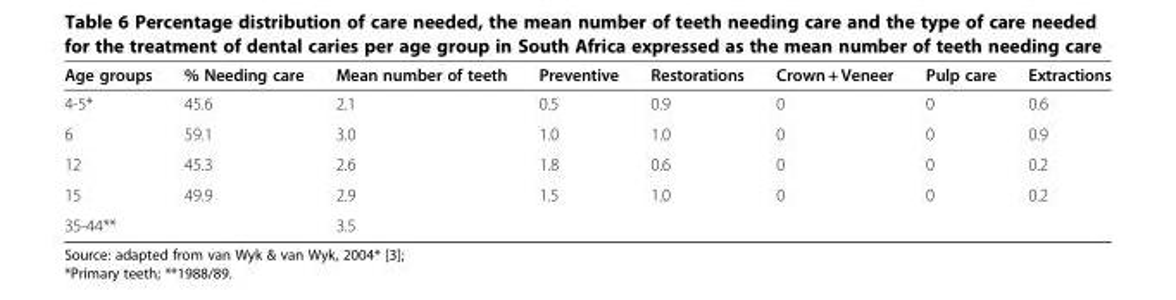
<table><thead><tr><td>Age groups</td><td>% Needing care</td><td>Mean number of teeth</td><td>Preventive</td><td>Restorations</td><td>Crown + Veneer</td><td>Pulp care</td><td>Extractions</td></tr></thead><tbody><tr><td>4-5*</td><td>45.6</td><td>2.1</td><td>0.5</td><td>0.9</td><td>0</td><td>0</td><td>0.6</td></tr><tr><td>6</td><td>59.1</td><td>3.0</td><td>1.0</td><td>1.0</td><td>0</td><td>0</td><td>0.9</td></tr><tr><td>12</td><td>45.3</td><td>2.6</td><td>1.8</td><td>0.6</td><td>0</td><td>0</td><td>0.2</td></tr><tr><td>15</td><td>49.9</td><td>2.9</td><td>1.5</td><td>1.0</td><td>0</td><td>0</td><td>0.2</td></tr><tr><td>35-44**</td><td></td><td>3.5</td><td></td><td></td><td></td><td></td><td></td></tr></tbody></table>